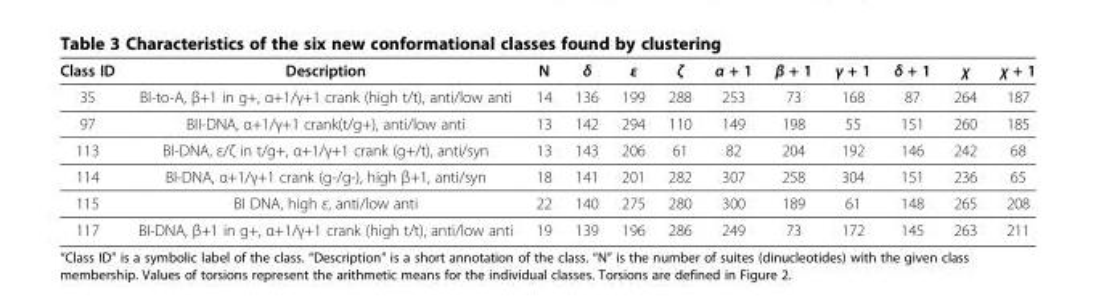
<table><thead><tr><td>Class ID</td><td>Description</td><td>N</td><td>δ</td><td>ε</td><td>ζ</td><td>α + 1</td><td>β + 1</td><td>γ + 1</td><td>δ + 1</td><td>χ</td><td>χ + 1</td></tr></thead><tbody><tr><td>35</td><td>BI-to-A, β+1 in g+, α+1/γ+1 crank (high t/t), anti/low anti</td><td>14</td><td>136</td><td>199</td><td>288</td><td>253</td><td>73</td><td>168</td><td>87</td><td>264</td><td>187</td></tr><tr><td>97</td><td>BII-DNA, α+1/γ+1 crank(t/g+), anti/low anti</td><td>13</td><td>142</td><td>294</td><td>110</td><td>149</td><td>198</td><td>55</td><td>151</td><td>260</td><td>185</td></tr><tr><td>113</td><td>BI-DNA, ε/ζ in t/g+, α+1/γ+1 crank (g+/t), anti/syn</td><td>13</td><td>143</td><td>206</td><td>61</td><td>82</td><td>204</td><td>192</td><td>146</td><td>242</td><td>68</td></tr><tr><td>114</td><td>BI-DNA, α+1/γ+1 crank (g-/g-), high β+1, anti/syn</td><td>18</td><td>141</td><td>201</td><td>282</td><td>307</td><td>258</td><td>304</td><td>151</td><td>236</td><td>65</td></tr><tr><td>115</td><td>BI DNA, high ε, anti/low anti</td><td>22</td><td>140</td><td>275</td><td>280</td><td>300</td><td>189</td><td>61</td><td>148</td><td>265</td><td>208</td></tr><tr><td>117</td><td>BI-DNA, β+1 in g+, α+1/γ+1 crank (high t/t), anti/low anti</td><td>19</td><td>139</td><td>196</td><td>286</td><td>249</td><td>73</td><td>172</td><td>145</td><td>263</td><td>211</td></tr></tbody></table>